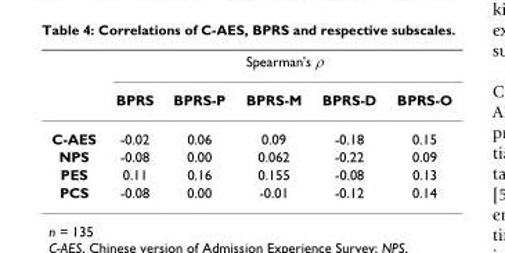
<table><thead><tr><td rowspan="2"></td><td colspan="5">Spearman&#x27;s ρ</td></tr><tr><td>BPRS</td><td>BPRS-P</td><td>BPRS-M</td><td>BPRS-D</td><td>BPRS-O</td></tr></thead><tbody><tr><td>C-AES</td><td>-0.02</td><td>0.06</td><td>0.09</td><td>-0.18</td><td>0.15</td></tr><tr><td>NPS</td><td>-0.08</td><td>0.00</td><td>0.062</td><td>-0.22</td><td>0.09</td></tr><tr><td>PES</td><td>0.11</td><td>0.16</td><td>0.155</td><td>-0.08</td><td>0.13</td></tr><tr><td>PCS</td><td>-0.08</td><td>0.00</td><td>-0.01</td><td>-0.12</td><td>0.14</td></tr></tbody></table>